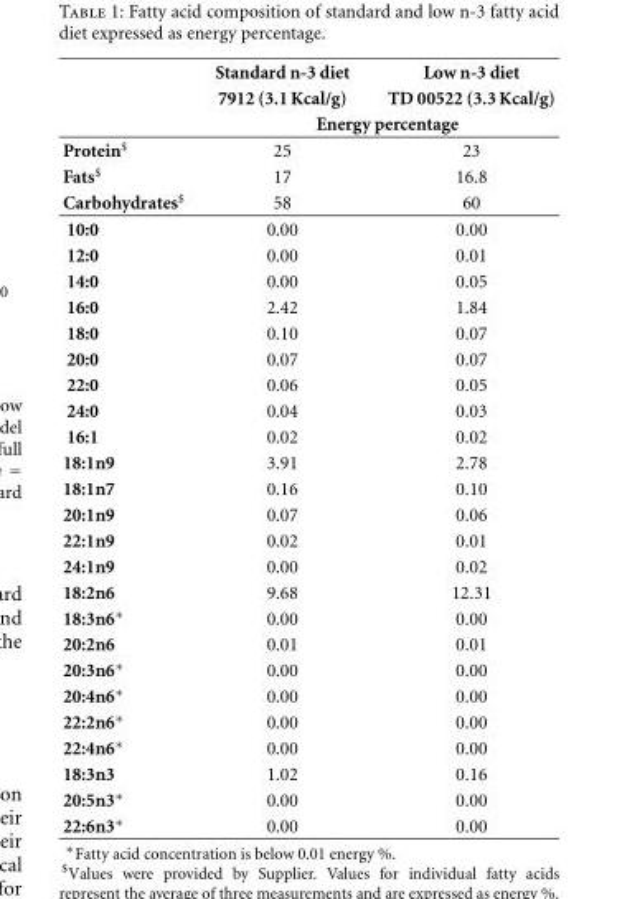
<table><thead><tr><td rowspan="3"></td><td rowspan="2">Standard n-3 diet 7912 (3.1 Kcal/g)</td><td rowspan="2">Low n-3 diet TD 00522 (3.3 Kcal/g)</td></tr><tr></tr><tr><td colspan="2">Energy percentage</td></tr></thead><tbody><tr><td>Protein$</td><td>25</td><td>23</td></tr><tr><td>Fats$</td><td>17</td><td>16.8</td></tr><tr><td>Carbohydrates$</td><td>58</td><td>60</td></tr><tr><td>10:0</td><td>0.00</td><td>0.00</td></tr><tr><td>12:0</td><td>0.00</td><td>0.01</td></tr><tr><td>14:0</td><td>0.00</td><td>0.05</td></tr><tr><td>16:0</td><td>2.42</td><td>1.84</td></tr><tr><td>18:0</td><td>0.10</td><td>0.07</td></tr><tr><td>20:0</td><td>0.07</td><td>0.07</td></tr><tr><td>22:0</td><td>0.06</td><td>0.05</td></tr><tr><td>24:0</td><td>0.04</td><td>0.03</td></tr><tr><td>16:1</td><td>0.02</td><td>0.02</td></tr><tr><td>18:1n9</td><td>3.91</td><td>2.78</td></tr><tr><td>18:1n7</td><td>0.16</td><td>0.10</td></tr><tr><td>20:1n9</td><td>0.07</td><td>0.06</td></tr><tr><td>22:1n9</td><td>0.02</td><td>0.01</td></tr><tr><td>24:1n9</td><td>0.00</td><td>0.02</td></tr><tr><td>18:2n6</td><td>9.68</td><td>12.31</td></tr><tr><td>18:3n6∗</td><td>0.00</td><td>0.00</td></tr><tr><td>20:2n6</td><td>0.01</td><td>0.01</td></tr><tr><td>20:3n6∗</td><td>0.00</td><td>0.00</td></tr><tr><td>20:4n6∗</td><td>0.00</td><td>0.00</td></tr><tr><td>22:2n6∗</td><td>0.00</td><td>0.00</td></tr><tr><td>22:4n6∗</td><td>0.00</td><td>0.00</td></tr><tr><td>18:3n3</td><td>1.02</td><td>0.16</td></tr><tr><td>20:5n3∗</td><td>0.00</td><td>0.00</td></tr><tr><td>22:6n3∗</td><td>0.00</td><td>0.00</td></tr></tbody></table>